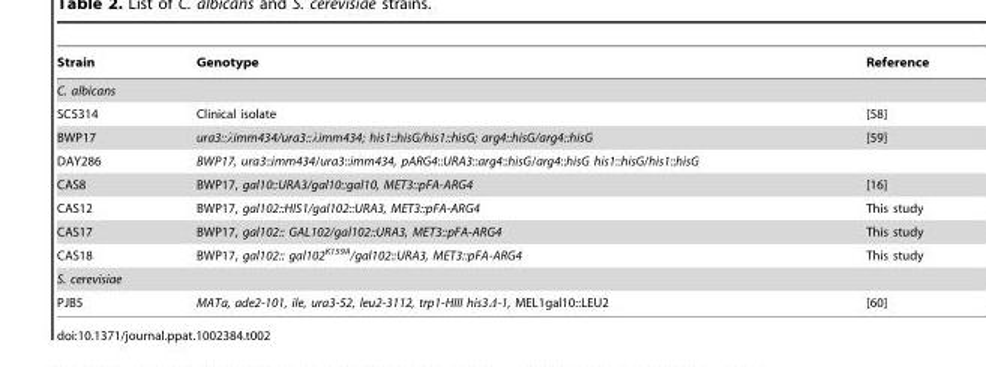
<table><thead><tr><td>Strain</td><td>Genotype</td><td>Reference</td></tr></thead><tbody><tr><td colspan="3">C. albicans</td></tr><tr><td>SC5314</td><td>Clinical isolate</td><td>[58]</td></tr><tr><td>BWP17</td><td>ura3::λimm434/ura3::λimm434; his1::hisG/his1::hisG; arg4::hisG/arg4::hisG</td><td>[59]</td></tr><tr><td>DAY286</td><td>BWP17, ura3::imm434/ura3::imm434, pARG4::URA3::arg4::hisG/arg4::hisG his1::hisG/his1::hisG</td><td></td></tr><tr><td>CAS8</td><td>BWP17, gal10::URA3/gal10::gal10, MET3::pFA-ARG4</td><td>[16]</td></tr><tr><td>CAS12</td><td>BWP17, gal102::HIS1/gal102::URA3, MET3::pFA-ARG4</td><td>This study</td></tr><tr><td>CAS17</td><td>BWP17, gal102:: GAL102/gal102::URA3, MET3::pFA-ARG4</td><td>This study</td></tr><tr><td>CAS18</td><td>BWP17, gal102:: gal102<sup>K159A</sup>/gal102::URA3, MET3::pFA-ARG4</td><td>This study</td></tr><tr><td colspan="3">S. cerevisiae</td></tr><tr><td>PJB5</td><td>MATa, ade2-101, ile, ura3-52, leu2-3112, trp1-HIII his3Δ-1, MEL1gal10::LEU2</td><td>[60]</td></tr></tbody></table>